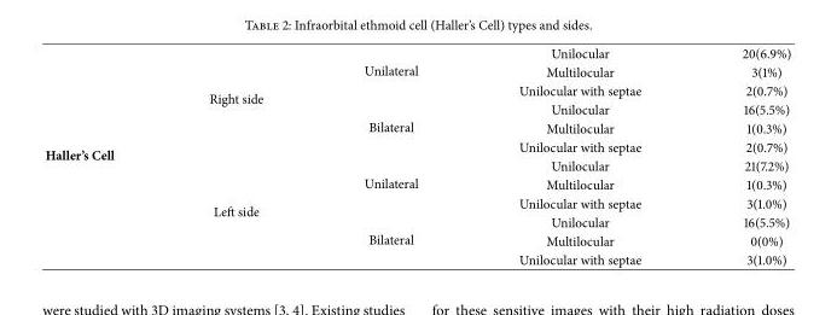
<table><tbody><tr><td rowspan="12">Haller’s Cell</td><td rowspan="6">Right side</td><td rowspan="3">Unilateral</td><td>Unilocular</td><td>20(6.9%)</td></tr><tr><td>Multilocular</td><td>3(1%)</td></tr><tr><td>Unilocular with septae</td><td>2(0.7%)</td></tr><tr><td rowspan="3">Bilateral</td><td>Unilocular</td><td>16(5.5%)</td></tr><tr><td>Multilocular</td><td>1(0.3%)</td></tr><tr><td>Unilocular with septae</td><td>2(0.7%)</td></tr><tr><td rowspan="6">Left side</td><td rowspan="3">Unilateral</td><td>Unilocular</td><td>21(7.2%)</td></tr><tr><td>Multilocular</td><td>1(0.3%)</td></tr><tr><td>Unilocular with septae</td><td>3(1.0%)</td></tr><tr><td rowspan="3">Bilateral</td><td>Unilocular</td><td>16(5.5%)</td></tr><tr><td>Multilocular</td><td>0(0%)</td></tr><tr><td>Unilocular with septae</td><td>3(1.0%)</td></tr></tbody></table>